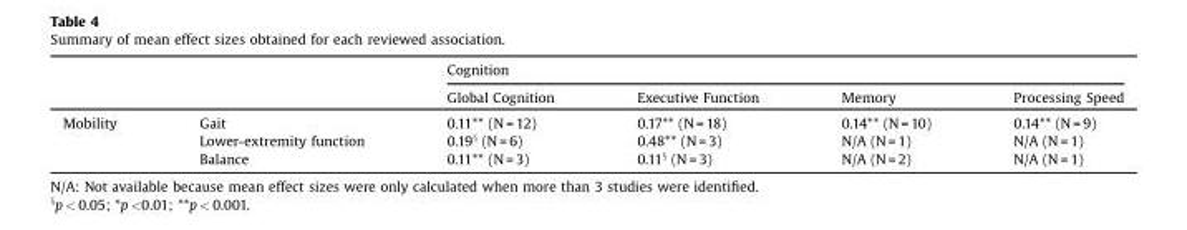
<table><thead><tr><td rowspan="2"></td><td rowspan="2"></td><td colspan="4">Cognition</td></tr><tr><td>Global Cognition</td><td>Executive Function</td><td>Memory</td><td>Processing Speed</td></tr></thead><tbody><tr><td rowspan="3">Mobility</td><td>Gait</td><td>0.11** (N = 12)</td><td>0.17** (N = 18)</td><td>0.14** (N = 10)</td><td>0.14** (N = 9)</td></tr><tr><td>Lower-extremity function</td><td>0.19<sup>§</sup> (N = 6)</td><td>0.48** (N = 3)</td><td>N/A (N = 1)</td><td>N/A (N = 1)</td></tr><tr><td>Balance</td><td>0.11** (N = 3)</td><td>0.11<sup>§</sup> (N = 3)</td><td>N/A (N = 2)</td><td>N/A (N = 1)</td></tr></tbody></table>